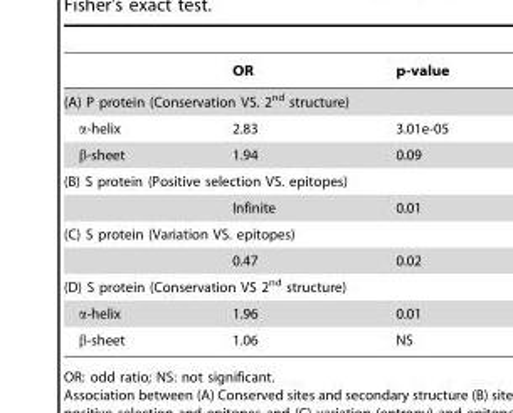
<table><thead><tr><td></td><td>OR</td><td>p-value</td></tr></thead><tbody><tr><td colspan="3">(A) P protein (Conservation VS. 2<sup>nd</sup> structure)</td></tr><tr><td>α-helix</td><td>2.83</td><td>3.01e-05</td></tr><tr><td>β-sheet</td><td>1.94</td><td>0.09</td></tr><tr><td colspan="3">(B) S protein (Positive selection VS. epitopes)</td></tr><tr><td></td><td>Infinite</td><td>0.01</td></tr><tr><td colspan="3">(C) S protein (Variation VS. epitopes)</td></tr><tr><td></td><td>0.47</td><td>0.02</td></tr><tr><td colspan="3">(D) S protein (Conservation VS 2<sup>nd</sup> structure)</td></tr><tr><td>α-helix</td><td>1.96</td><td>0.01</td></tr><tr><td>β-sheet</td><td>1.06</td><td>NS</td></tr></tbody></table>